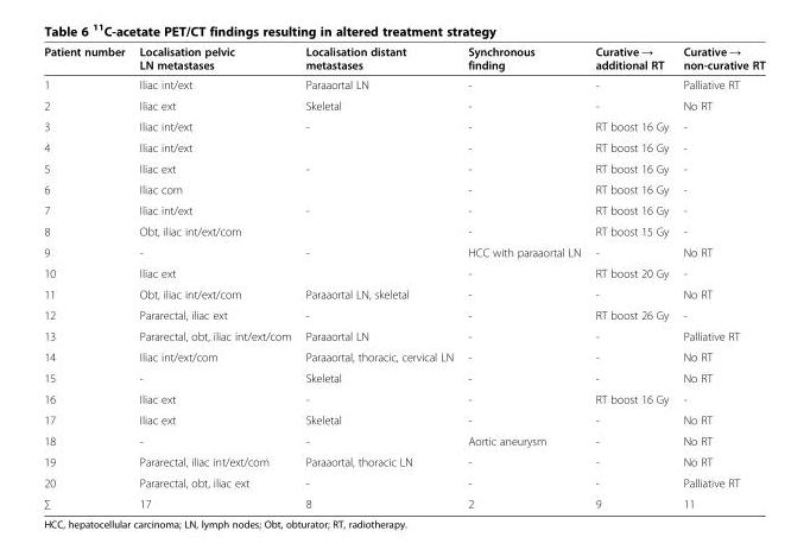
<table><thead><tr><td>Patient number</td><td>Localisation pelvic LN metastases</td><td>Localisation distant metastases</td><td>Synchronous finding</td><td>Curative → additional RT</td><td>Curative → non-curative RT</td></tr></thead><tbody><tr><td>1</td><td>Iliac int/ext</td><td>Paraaortal LN</td><td>-</td><td>-</td><td>Palliative RT</td></tr><tr><td>2</td><td>Iliac ext</td><td>Skeletal</td><td>-</td><td>-</td><td>No RT</td></tr><tr><td>3</td><td>Iliac int/ext</td><td>-</td><td>-</td><td>RT boost 16 Gy</td><td>-</td></tr><tr><td>4</td><td>Iliac int/ext</td><td></td><td>-</td><td>RT boost 16 Gy</td><td>-</td></tr><tr><td>5</td><td>Iliac ext</td><td>-</td><td>-</td><td>RT boost 16 Gy</td><td>-</td></tr><tr><td>6</td><td>Iliac com</td><td></td><td>-</td><td>RT boost 16 Gy</td><td>-</td></tr><tr><td>7</td><td>Iliac int/ext</td><td>-</td><td>-</td><td>RT boost 16 Gy</td><td>-</td></tr><tr><td>8</td><td>Obt, iliac int/ext/com</td><td></td><td>-</td><td>RT boost 15 Gy</td><td>-</td></tr><tr><td>9</td><td>-</td><td>-</td><td>HCC with paraaortal LN</td><td>-</td><td>No RT</td></tr><tr><td>10</td><td>Iliac ext</td><td></td><td>-</td><td>RT boost 20 Gy</td><td>-</td></tr><tr><td>11</td><td>Obt, iliac int/ext/com</td><td>Paraaortal LN, skeletal</td><td>-</td><td>-</td><td>No RT</td></tr><tr><td>12</td><td>Pararectal, iliac ext</td><td>-</td><td>-</td><td>RT boost 26 Gy</td><td>-</td></tr><tr><td>13</td><td>Pararectal, obt, iliac int/ext/com</td><td>Paraaortal LN</td><td>-</td><td>-</td><td>Palliative RT</td></tr><tr><td>14</td><td>Iliac int/ext/com</td><td>Paraaortal, thoracic, cervical LN</td><td>-</td><td>-</td><td>No RT</td></tr><tr><td>15</td><td>-</td><td>Skeletal</td><td>-</td><td>-</td><td>No RT</td></tr><tr><td>16</td><td>Iliac ext</td><td>-</td><td>-</td><td>RT boost 16 Gy</td><td>-</td></tr><tr><td>17</td><td>Iliac ext</td><td>Skeletal</td><td>-</td><td>-</td><td>No RT</td></tr><tr><td>18</td><td>-</td><td>-</td><td>Aortic aneurysm</td><td>-</td><td>No RT</td></tr><tr><td>19</td><td>Pararectal, iliac int/ext/com</td><td>Paraaortal, thoracic LN</td><td>-</td><td>-</td><td>No RT</td></tr><tr><td>20</td><td>Pararectal, obt, iliac ext</td><td>-</td><td>-</td><td>-</td><td>Palliative RT</td></tr><tr><td>∑</td><td>17</td><td>8</td><td>2</td><td>9</td><td>11</td></tr></tbody></table>